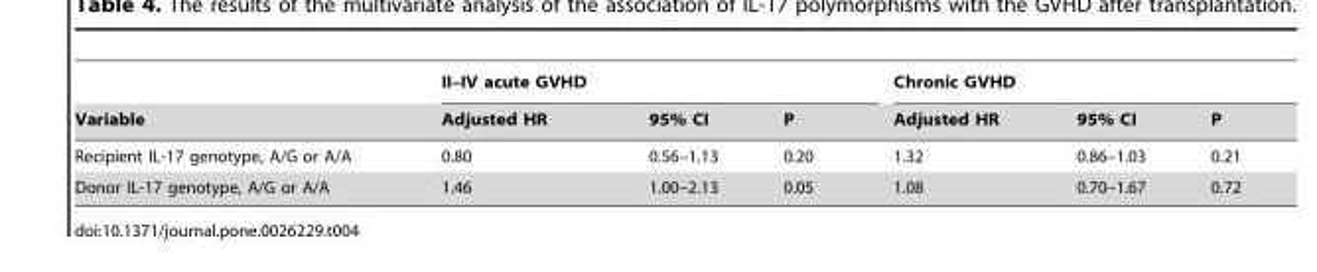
<table><thead><tr><td rowspan="2">Variable</td><td colspan="3">II–IV acute GVHD</td><td colspan="3">Chronic GVHD</td></tr><tr><td>Adjusted HR</td><td>95% CI</td><td>P</td><td>Adjusted HR</td><td>95% CI</td><td>P</td></tr></thead><tbody><tr><td>Recipient IL-17 genotype, A/G or A/A</td><td>0.80</td><td>0.56–1.13</td><td>0.20</td><td>1.32</td><td>0.86–1.03</td><td>0.21</td></tr><tr><td>Donor IL-17 genotype, A/G or A/A</td><td>1.46</td><td>1.00–2.13</td><td>0.05</td><td>1.08</td><td>0.70–1.67</td><td>0.72</td></tr></tbody></table>